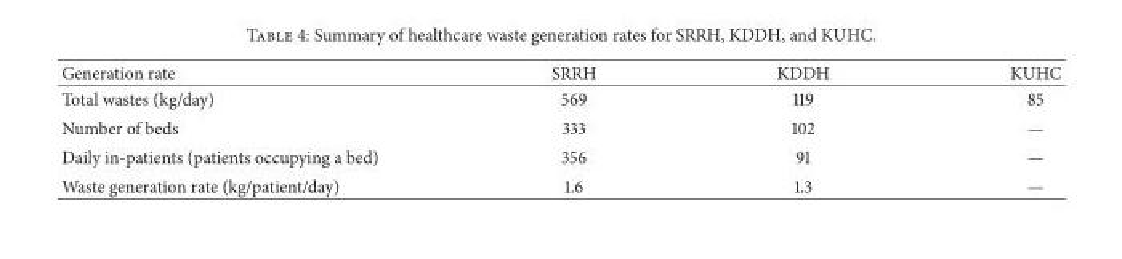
<table><thead><tr><td>Generation rate</td><td>SRRH</td><td>KDDH</td><td>KUHC</td></tr></thead><tbody><tr><td>Total wastes (kg/day)</td><td>569</td><td>119</td><td>85</td></tr><tr><td>Number of beds</td><td>333</td><td>102</td><td>—</td></tr><tr><td>Daily in-patients (patients occupying a bed)</td><td>356</td><td>91</td><td>—</td></tr><tr><td>Waste generation rate (kg/patient/day)</td><td>1.6</td><td>1.3</td><td>—</td></tr></tbody></table>